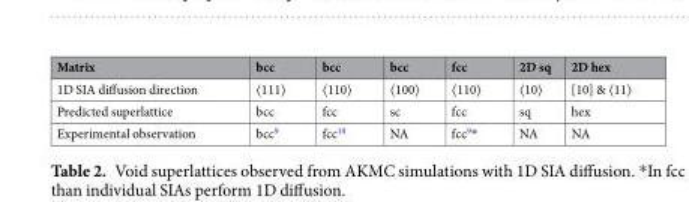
<table><thead><tr><td>Matrix</td><td>bcc</td><td>bcc</td><td>bcc</td><td>fcc</td><td>2D sq</td><td>2D hex</td></tr></thead><tbody><tr><td>1D SIA diffusion direction</td><td>〈111〉</td><td>〈110〉</td><td>〈100〉</td><td>〈110〉</td><td>〈10〉</td><td>[10] &amp; 〈11〉</td></tr><tr><td>Predicted superlattice</td><td>bcc</td><td>fcc</td><td>sc</td><td>fcc</td><td>sq</td><td>hex</td></tr><tr><td>Experimental observation</td><td>bcc<sup>9</sup></td><td>fcc<sup>10</sup></td><td>NA</td><td>fcc<sup>9</sup>*</td><td>NA</td><td>NA</td></tr></tbody></table>